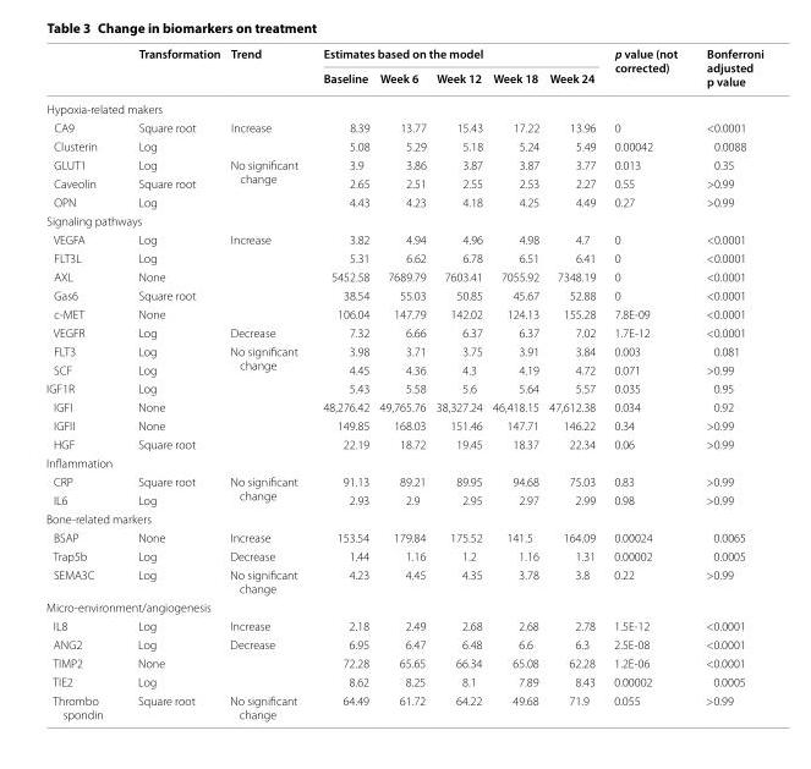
<table><thead><tr><td rowspan="2"></td><td rowspan="2">Transformation</td><td rowspan="2">Trend</td><td colspan="5">Estimates based on the model</td><td rowspan="2">p value (not corrected)</td><td rowspan="2">Bonferroni adjusted p value</td></tr><tr><td>Baseline</td><td>Week 6</td><td>Week 12</td><td>Week 18</td><td>Week 24</td></tr></thead><tbody><tr><td colspan="10">Hypoxia‑related makers</td></tr><tr><td>CA9</td><td>Square root</td><td rowspan="2">Increase</td><td>8.39</td><td>13.77</td><td>15.43</td><td>17.22</td><td>13.96</td><td>0</td><td>&lt;0.0001</td></tr><tr><td>Clusterin</td><td>Log</td><td>5.08</td><td>5.29</td><td>5.18</td><td>5.24</td><td>5.49</td><td>0.00042</td><td>0.0088</td></tr><tr><td>GLUT1</td><td>Log</td><td rowspan="3">No significant change</td><td>3.9</td><td>3.86</td><td>3.87</td><td>3.87</td><td>3.77</td><td>0.013</td><td>0.35</td></tr><tr><td>Caveolin</td><td>Square root</td><td>2.65</td><td>2.51</td><td>2.55</td><td>2.53</td><td>2.27</td><td>0.55</td><td>&gt;0.99</td></tr><tr><td>OPN</td><td>Log</td><td>4.43</td><td>4.23</td><td>4.18</td><td>4.25</td><td>4.49</td><td>0.27</td><td>&gt;0.99</td></tr><tr><td colspan="10">Signaling pathways</td></tr><tr><td>VEGFA</td><td>Log</td><td rowspan="5">Increase</td><td>3.82</td><td>4.94</td><td>4.96</td><td>4.98</td><td>4.7</td><td>0</td><td>&lt;0.0001</td></tr><tr><td>FLT3L</td><td>Log</td><td>5.31</td><td>6.62</td><td>6.78</td><td>6.51</td><td>6.41</td><td>0</td><td>&lt;0.0001</td></tr><tr><td>AXL</td><td>None</td><td>5452.58</td><td>7689.79</td><td>7603.41</td><td>7055.92</td><td>7348.19</td><td>0</td><td>&lt;0.0001</td></tr><tr><td>Gas6</td><td>Square root</td><td>38.54</td><td>55.03</td><td>50.85</td><td>45.67</td><td>52.88</td><td>0</td><td>&lt;0.0001</td></tr><tr><td>c‑MET</td><td>None</td><td>106.04</td><td>147.79</td><td>142.02</td><td>124.13</td><td>155.28</td><td>7.8E‑09</td><td>&lt;0.0001</td></tr><tr><td>VEGFR</td><td>Log</td><td>Decrease</td><td>7.32</td><td>6.66</td><td>6.37</td><td>6.37</td><td>7.02</td><td>1.7E‑12</td><td>&lt;0.0001</td></tr><tr><td>FLT3</td><td>Log</td><td rowspan="6">No significant change</td><td>3.98</td><td>3.71</td><td>3.75</td><td>3.91</td><td>3.84</td><td>0.003</td><td>0.081</td></tr><tr><td>SCF</td><td>Log</td><td>4.45</td><td>4.36</td><td>4.3</td><td>4.19</td><td>4.72</td><td>0.071</td><td>&gt;0.99</td></tr><tr><td>IGF1R</td><td>Log</td><td>5.43</td><td>5.58</td><td>5.6</td><td>5.64</td><td>5.57</td><td>0.035</td><td>0.95</td></tr><tr><td>IGFI</td><td>None</td><td>48,276.42</td><td>49,765.76</td><td>38,327.24</td><td>46,418.15</td><td>47,612.38</td><td>0.034</td><td>0.92</td></tr><tr><td>IGFII</td><td>None</td><td>149.85</td><td>168.03</td><td>151.46</td><td>147.71</td><td>146.22</td><td>0.34</td><td>&gt;0.99</td></tr><tr><td>HGF</td><td>Square root</td><td>22.19</td><td>18.72</td><td>19.45</td><td>18.37</td><td>22.34</td><td>0.06</td><td>&gt;0.99</td></tr><tr><td colspan="10">Inflammation</td></tr><tr><td>CRP</td><td>Square root</td><td rowspan="2">No significant change</td><td>91.13</td><td>89.21</td><td>89.95</td><td>94.68</td><td>75.03</td><td>0.83</td><td>&gt;0.99</td></tr><tr><td>IL6</td><td>Log</td><td>2.93</td><td>2.9</td><td>2.95</td><td>2.97</td><td>2.99</td><td>0.98</td><td>&gt;0.99</td></tr><tr><td colspan="10">Bone‑related markers</td></tr><tr><td>BSAP</td><td>None</td><td>Increase</td><td>153.54</td><td>179.84</td><td>175.52</td><td>141.5</td><td>164.09</td><td>0.00024</td><td>0.0065</td></tr><tr><td>Trap5b</td><td>Log</td><td>Decrease</td><td>1.44</td><td>1.16</td><td>1.2</td><td>1.16</td><td>1.31</td><td>0.00002</td><td>0.0005</td></tr><tr><td>SEMA3C</td><td>Log</td><td>No significant change</td><td>4.23</td><td>4.45</td><td>4.35</td><td>3.78</td><td>3.8</td><td>0.22</td><td>&gt;0.99</td></tr><tr><td colspan="10">Micro‑environment/angiogenesis</td></tr><tr><td>IL8</td><td>Log</td><td>Increase</td><td>2.18</td><td>2.49</td><td>2.68</td><td>2.68</td><td>2.78</td><td>1.5E‑12</td><td>&lt;0.0001</td></tr><tr><td>ANG2</td><td>Log</td><td rowspan="3">Decrease</td><td>6.95</td><td>6.47</td><td>6.48</td><td>6.6</td><td>6.3</td><td>2.5E‑08</td><td>&lt;0.0001</td></tr><tr><td>TIMP2</td><td>None</td><td>72.28</td><td>65.65</td><td>66.34</td><td>65.08</td><td>62.28</td><td>1.2E‑06</td><td>&lt;0.0001</td></tr><tr><td>TIE2</td><td>Log</td><td>8.62</td><td>8.25</td><td>8.1</td><td>7.89</td><td>8.43</td><td>0.00002</td><td>0.0005</td></tr><tr><td>Thrombo spondin</td><td>Square root</td><td>No significant change</td><td>64.49</td><td>61.72</td><td>64.22</td><td>49.68</td><td>71.9</td><td>0.055</td><td>&gt;0.99</td></tr></tbody></table>